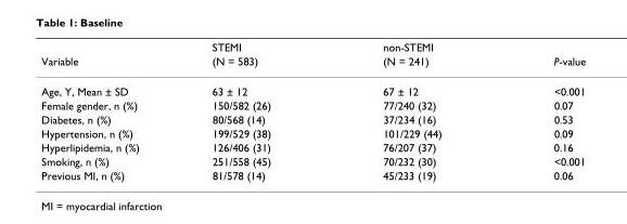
<table><thead><tr><td rowspan="2">Variable</td><td rowspan="2">STEMI (N = 583)</td><td rowspan="2">non-STEMI (N = 241)</td><td rowspan="2">P-value</td></tr><tr></tr></thead><tbody><tr><td>Age, Y, Mean ± SD</td><td>63 ± 12</td><td>67 ± 12</td><td>&lt;0.001</td></tr><tr><td>Female gender, n (%)</td><td>150/582 (26)</td><td>77/240 (32)</td><td>0.07</td></tr><tr><td>Diabetes, n (%)</td><td>80/568 (14)</td><td>37/234 (16)</td><td>0.53</td></tr><tr><td>Hypertension, n (%)</td><td>199/529 (38)</td><td>101/229 (44)</td><td>0.09</td></tr><tr><td>Hyperlipidemia, n (%)</td><td>126/406 (31)</td><td>76/207 (37)</td><td>0.16</td></tr><tr><td>Smoking, n (%)</td><td>251/558 (45)</td><td>70/232 (30)</td><td>&lt;0.001</td></tr><tr><td>Previous MI, n (%)</td><td>81/578 (14)</td><td>45/233 (19)</td><td>0.06</td></tr></tbody></table>